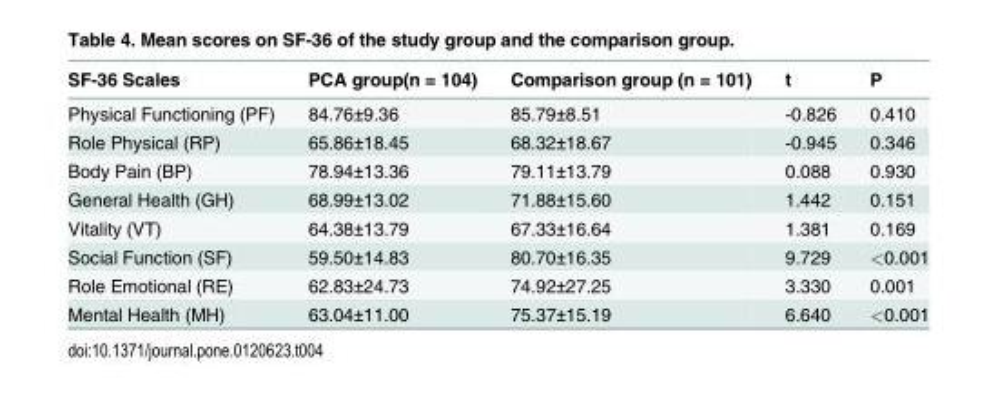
<table><thead><tr><td>SF-36 Scales</td><td>PCA group(n = 104)</td><td>Comparison group (n = 101)</td><td>t</td><td>P</td></tr></thead><tbody><tr><td>Physical Functioning (PF)</td><td>84.76±9.36</td><td>85.79±8.51</td><td>-0.826</td><td>0.410</td></tr><tr><td>Role Physical (RP)</td><td>65.86±18.45</td><td>68.32±18.67</td><td>-0.945</td><td>0.346</td></tr><tr><td>Body Pain (BP)</td><td>78.94±13.36</td><td>79.11±13.79</td><td>0.088</td><td>0.930</td></tr><tr><td>General Health (GH)</td><td>68.99±13.02</td><td>71.88±15.60</td><td>1.442</td><td>0.151</td></tr><tr><td>Vitality (VT)</td><td>64.38±13.79</td><td>67.33±16.64</td><td>1.381</td><td>0.169</td></tr><tr><td>Social Function (SF)</td><td>59.50±14.83</td><td>80.70±16.35</td><td>9.729</td><td>&lt;0.001</td></tr><tr><td>Role Emotional (RE)</td><td>62.83±24.73</td><td>74.92±27.25</td><td>3.330</td><td>0.001</td></tr><tr><td>Mental Health (MH)</td><td>63.04±11.00</td><td>75.37±15.19</td><td>6.640</td><td>&lt;0.001</td></tr></tbody></table>